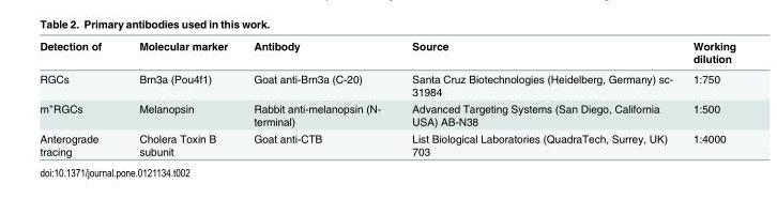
<table><thead><tr><td>Detection of</td><td>Molecular marker</td><td>Antibody</td><td>Source</td><td>Working dilution</td></tr></thead><tbody><tr><td>RGCs</td><td>Brn3a (Pou4f1)</td><td>Goat anti-Brn3a (C-20)</td><td>Santa Cruz Biotechnologies (Heidelberg, Germany) sc- 31984</td><td>1:750</td></tr><tr><td>m<sup>+</sup>RGCs</td><td>Melanopsin</td><td>Rabbit anti-melanopsin (N- terminal)</td><td>Advanced Targeting Systems (San Diego, California USA) AB-N38</td><td>1:500</td></tr><tr><td>Anterograde tracing</td><td>Cholera Toxin B subunit</td><td>Goat anti-CTB</td><td>List Biological Laboratories (QuadraTech, Surrey, UK) 703</td><td>1:4000</td></tr></tbody></table>